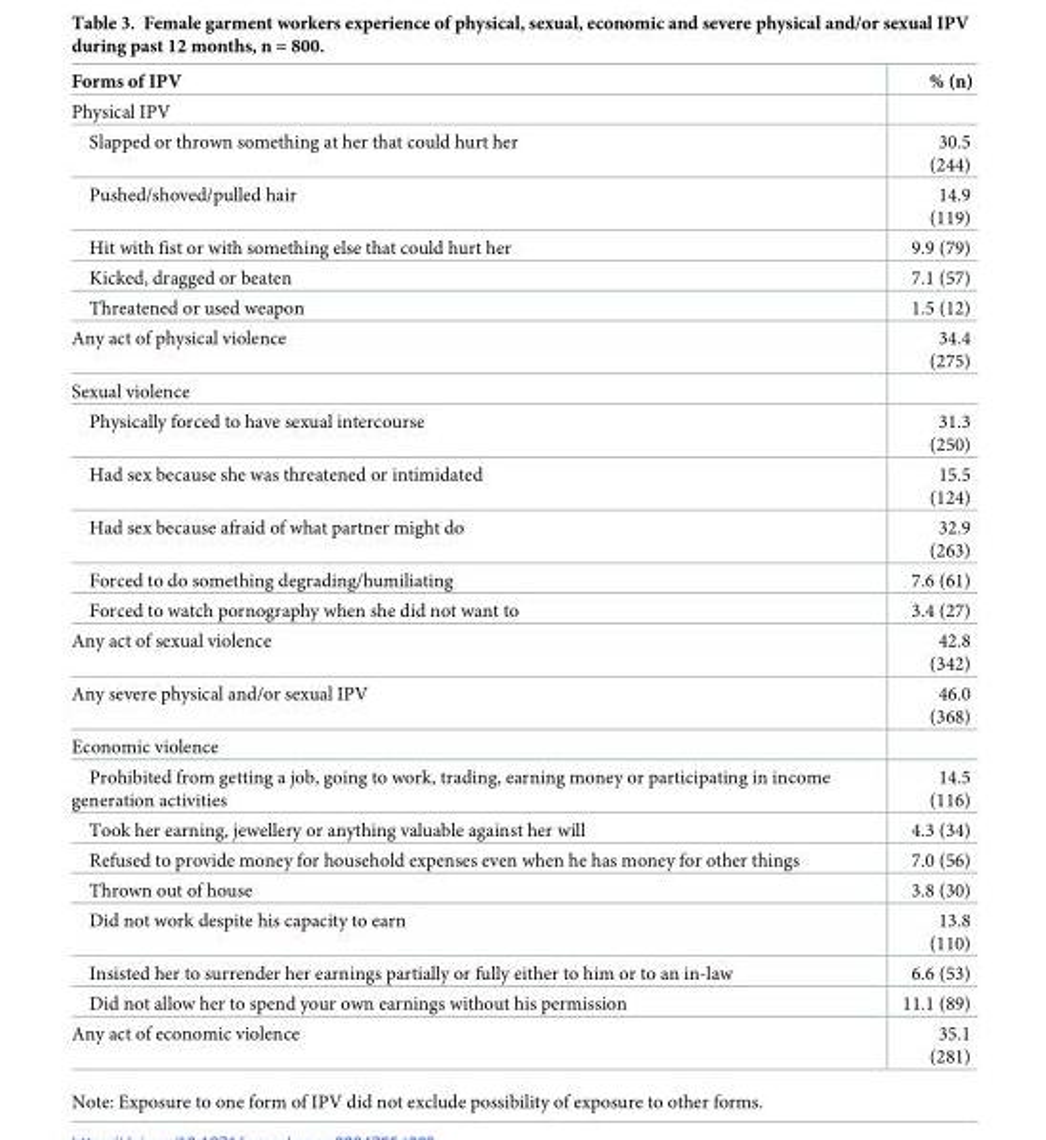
<table><thead><tr><td>Forms of IPV</td><td>% (n)</td></tr></thead><tbody><tr><td colspan="2">Physical IPV</td></tr><tr><td>Slapped or thrown something at her that could hurt her</td><td>30.5 (244)</td></tr><tr><td>Pushed/shoved/pulled hair</td><td>14.9 (119)</td></tr><tr><td>Hit with fist or with something else that could hurt her</td><td>9.9 (79)</td></tr><tr><td>Kicked, dragged or beaten</td><td>7.1 (57)</td></tr><tr><td>Threatened or used weapon</td><td>1.5 (12)</td></tr><tr><td>Any act of physical violence</td><td>34.4 (275)</td></tr><tr><td colspan="2">Sexual violence</td></tr><tr><td>Physically forced to have sexual intercourse</td><td>31.3 (250)</td></tr><tr><td>Had sex because she was threatened or intimidated</td><td>15.5 (124)</td></tr><tr><td>Had sex because afraid of what partner might do</td><td>32.9 (263)</td></tr><tr><td>Forced to do something degrading/humiliating</td><td>7.6 (61)</td></tr><tr><td>Forced to watch pornography when she did not want to</td><td>3.4 (27)</td></tr><tr><td>Any act of sexual violence</td><td>42.8 (342)</td></tr><tr><td>Any severe physical and/or sexual IPV</td><td>46.0 (368)</td></tr><tr><td colspan="2">Economic violence</td></tr><tr><td>Prohibited from getting a job, going to work, trading, earning money or participating in income generation activities</td><td>14.5 (116)</td></tr><tr><td>Took her earning, jewellery or anything valuable against her will</td><td>4.3 (34)</td></tr><tr><td>Refused to provide money for household expenses even when he has money for other things</td><td>7.0 (56)</td></tr><tr><td>Thrown out of house</td><td>3.8 (30)</td></tr><tr><td>Did not work despite his capacity to earn</td><td>13.8 (110)</td></tr><tr><td>Insisted her to surrender her earnings partially or fully either to him or to an in-law</td><td>6.6 (53)</td></tr><tr><td>Did not allow her to spend your own earnings without his permission</td><td>11.1 (89)</td></tr><tr><td>Any act of economic violence</td><td>35.1 (281)</td></tr></tbody></table>